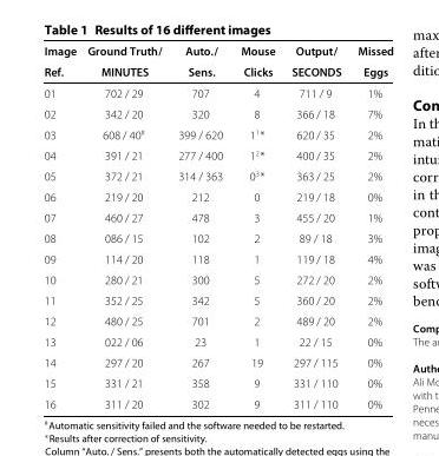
<table><thead><tr><td rowspan="2">Image Ref.</td><td rowspan="2">Ground Truth/ MINUTES</td><td rowspan="2">Auto./ Sens.</td><td rowspan="2">Mouse Clicks</td><td rowspan="2">Output/ SECONDS</td><td rowspan="2">Missed Eggs</td></tr><tr></tr></thead><tbody><tr><td>01</td><td>702 / 29</td><td>707</td><td>4</td><td>711 / 9</td><td>1%</td></tr><tr><td>02</td><td>342 / 20</td><td>320</td><td>8</td><td>366 / 18</td><td>7%</td></tr><tr><td>03</td><td>608 / 40<sup>#</sup></td><td>399 / 620</td><td>1<sup>1*</sup></td><td>620 / 35</td><td>2%</td></tr><tr><td>04</td><td>391 / 21</td><td>277 / 400</td><td>1<sup>2*</sup></td><td>400 / 35</td><td>2%</td></tr><tr><td>05</td><td>372 / 21</td><td>314 / 363</td><td>0<sup>3*</sup></td><td>363 / 25</td><td>2%</td></tr><tr><td>06</td><td>219 / 20</td><td>212</td><td>0</td><td>219 / 18</td><td>0%</td></tr><tr><td>07</td><td>460 / 27</td><td>478</td><td>3</td><td>455 / 20</td><td>1%</td></tr><tr><td>08</td><td>086 / 15</td><td>102</td><td>2</td><td>89 / 18</td><td>3%</td></tr><tr><td>09</td><td>114 / 20</td><td>118</td><td>1</td><td>119 / 18</td><td>4%</td></tr><tr><td>10</td><td>280 / 21</td><td>300</td><td>5</td><td>272 / 20</td><td>2%</td></tr><tr><td>11</td><td>352 / 25</td><td>342</td><td>5</td><td>360 / 20</td><td>2%</td></tr><tr><td>12</td><td>480 / 25</td><td>701</td><td>2</td><td>489 / 20</td><td>2%</td></tr><tr><td>13</td><td>022 / 06</td><td>23</td><td>1</td><td>22 / 15</td><td>0%</td></tr><tr><td>14</td><td>297 / 20</td><td>267</td><td>19</td><td>297 / 115</td><td>0%</td></tr><tr><td>15</td><td>331 / 21</td><td>358</td><td>9</td><td>331 / 110</td><td>0%</td></tr><tr><td>16</td><td>311 / 20</td><td>302</td><td>9</td><td>311 / 110</td><td>0%</td></tr></tbody></table>